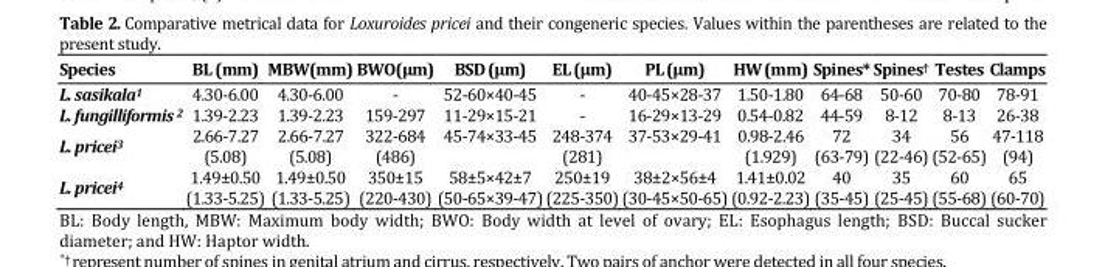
<table><thead><tr><td>Species</td><td>BL (mm)</td><td>MBW(mm)</td><td>BWO(µm)</td><td>BSD (µm)</td><td>EL (µm)</td><td>PL (µm)</td><td>HW (mm)</td><td>Spines*</td><td>Spines<sup>†</sup></td><td>Testes</td><td>Clamps</td></tr></thead><tbody><tr><td>L. sasikala1</td><td>4.30-6.00</td><td>4.30-6.00</td><td>-</td><td>52-60×40-45</td><td>-</td><td>40-45×28-37</td><td>1.50-1.80</td><td>64-68</td><td>50-60</td><td>70-80</td><td>78-91</td></tr><tr><td>L. fungilliformis 2</td><td>1.39-2.23</td><td>1.39-2.23</td><td>159-297</td><td>11-29×15-21</td><td>-</td><td>16-29×13-29</td><td>0.54-0.82</td><td>44-59</td><td>8-12</td><td>8-13</td><td>26-38</td></tr><tr><td>L. pricei3</td><td>2.66-7.27 (5.08)</td><td>2.66-7.27 (5.08)</td><td>322-684 (486)</td><td>45-74×33-45</td><td>248-374 (281)</td><td>37-53×29-41</td><td>0.98-2.46 (1.929)</td><td>72 (63-79)</td><td>34 (22-46)</td><td>56 (52-65)</td><td>47-118 (94)</td></tr><tr><td>L. pricei4</td><td>1.49±0.50 (1.33-5.25)</td><td>1.49±0.50 (1.33-5.25)</td><td>350±15 (220-430)</td><td>58±5×42±7 (50-65×39-47)</td><td>250±19 (225-350)</td><td>38±2×56±4 (30-45×50-65)</td><td>1.41±0.02 (0.92-2.23)</td><td>40 (35-45)</td><td>35 (25-45)</td><td>60 (55-68)</td><td>65 (60-70)</td></tr></tbody></table>